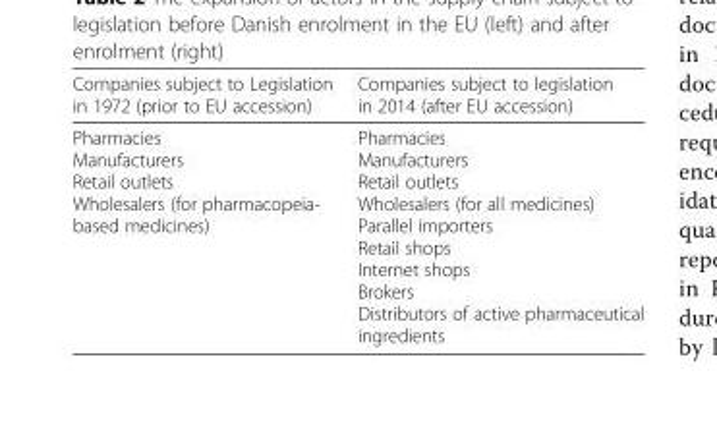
<table><thead><tr><td>Companies subject to Legislation in 1972 (prior to EU accession)</td><td>Companies subject to legislation in 2014 (after EU accession)</td></tr></thead><tbody><tr><td>Pharmacies Manufacturers Retail outlets Wholesalers (for pharmacopeia- based medicines)</td><td>Pharmacies Manufacturers Retail outlets Wholesalers (for all medicines) Parallel importers Retail shops Internet shops Brokers Distributors of active pharmaceutical ingredients</td></tr></tbody></table>